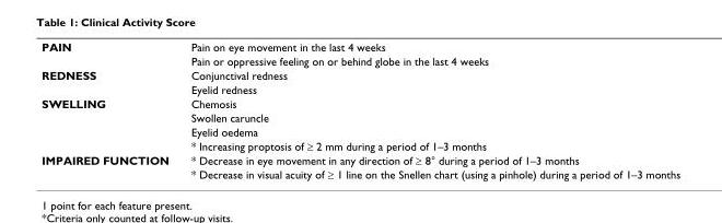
<table><tbody><tr><td rowspan="2">PAIN</td><td>Pain on eye movement in the last 4 weeks</td></tr><tr><td>Pain or oppressive feeling on or behind globe in the last 4 weeks</td></tr><tr><td rowspan="2">REDNESS</td><td>Conjunctival redness</td></tr><tr><td>Eyelid redness</td></tr><tr><td rowspan="4">SWELLING</td><td>Chemosis</td></tr><tr><td>Swollen caruncle</td></tr><tr><td>Eyelid oedema</td></tr><tr><td>* Increasing proptosis of ≥ 2 mm during a period of 1–3 months</td></tr><tr><td rowspan="2">IMPAIRED FUNCTION</td><td>* Decrease in eye movement in any direction of ≥ 8° during a period of 1–3 months</td></tr><tr><td>* Decrease in visual acuity of ≥ 1 line on the Snellen chart (using a pinhole) during a period of 1–3 months</td></tr></tbody></table>